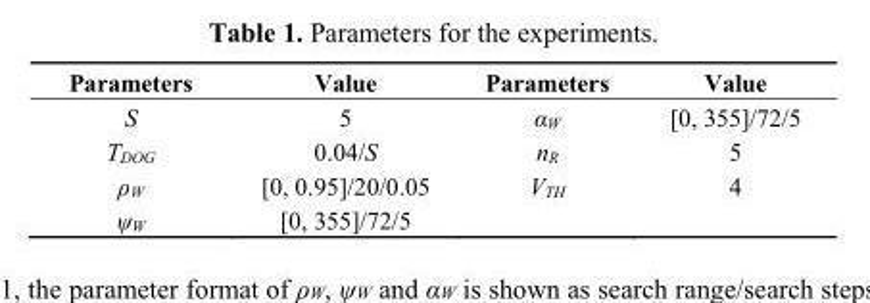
<table><thead><tr><td>Parameters</td><td>Value</td><td>Parameters</td><td>Value</td></tr></thead><tbody><tr><td>S</td><td>5</td><td>α<sub>W</sub></td><td>[0, 355]/72/5</td></tr><tr><td>T<sub>DOG</sub></td><td>0.04/S</td><td>n<sub>R</sub></td><td>5</td></tr><tr><td>ρ<sub>W</sub></td><td>[0, 0.95]/20/0.05</td><td>V<sub>TH</sub></td><td>4</td></tr><tr><td>ψ<sub>W</sub></td><td>[0, 355]/72/5</td><td></td><td></td></tr></tbody></table>